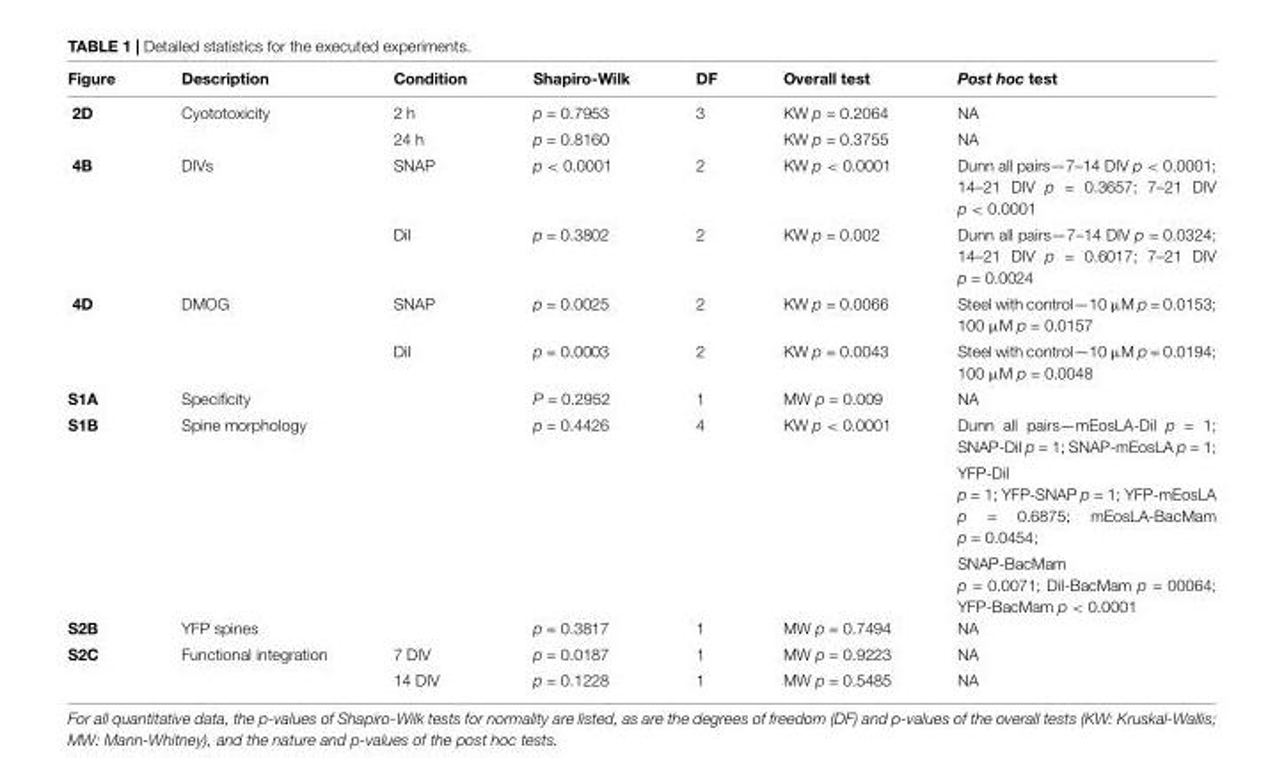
<table><thead><tr><td>Figure</td><td>Description</td><td>Condition</td><td>Shapiro-Wilk</td><td>DF</td><td>Overall test</td><td>Post hoc test</td></tr></thead><tbody><tr><td rowspan="2">2D</td><td>Cyototoxicity</td><td>2 h</td><td>p = 0.7953</td><td>3</td><td>KW p = 0.2064</td><td>NA</td></tr><tr><td></td><td>24 h</td><td>p = 0.8160</td><td></td><td>KW p = 0.3755</td><td>NA</td></tr><tr><td rowspan="2">4B</td><td>DIVs</td><td>SNAP</td><td>p &lt; 0.0001</td><td>2</td><td>KW p &lt; 0.0001</td><td>Dunn all pairs—7–14 DIV p &lt; 0.0001; 14–21 DIV p = 0.3657; 7–21 DIV p &lt; 0.0001</td></tr><tr><td></td><td>DiI</td><td>p = 0.3802</td><td>2</td><td>KW p = 0.002</td><td>Dunn all pairs—7–14 DIV p = 0.0324; 14–21 DIV p = 0.6017; 7–21 DIV p = 0.0024</td></tr><tr><td rowspan="2">4D</td><td>DMOG</td><td>SNAP</td><td>p = 0.0025</td><td>2</td><td>KW p = 0.0066</td><td>Steel with control—10 µM p = 0.0153; 100 µM p = 0.0157</td></tr><tr><td></td><td>DiI</td><td>p = 0.0003</td><td>2</td><td>KW p = 0.0043</td><td>Steel with control—10 µM p = 0.0194; 100 µM p = 0.0048</td></tr><tr><td>S1A</td><td>Specificity</td><td></td><td>P = 0.2952</td><td>1</td><td>MW p = 0.009</td><td>NA</td></tr><tr><td>S1B</td><td>Spine morphology</td><td></td><td>p = 0.4426</td><td>4</td><td>KW p &lt; 0.0001</td><td>Dunn all pairs—mEosLA-DiI p = 1; SNAP-DiI p = 1; SNAP-mEosLA p = 1; YFP-DiI p = 1; YFP-SNAP p = 1; YFP-mEosLA p = 0.6875; mEosLA-BacMam p = 0.0454; SNAP-BacMam p = 0.0071; DiI-BacMam p = 00064; YFP-BacMam p &lt; 0.0001</td></tr><tr><td>S2B</td><td>YFP spines</td><td></td><td>p = 0.3817</td><td>1</td><td>MW p = 0.7494</td><td>NA</td></tr><tr><td rowspan="2">S2C</td><td>Functional integration</td><td>7 DIV</td><td>p = 0.0187</td><td>1</td><td>MW p = 0.9223</td><td>NA</td></tr><tr><td></td><td>14 DIV</td><td>p = 0.1228</td><td>1</td><td>MW p = 0.5485</td><td>NA</td></tr></tbody></table>